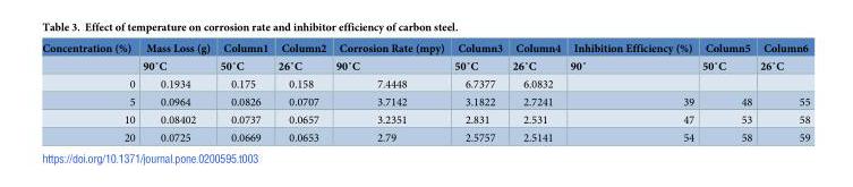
<table><thead><tr><td rowspan="2">Concentration (%)</td><td rowspan="2">Mass Loss (g) 90˚C</td><td rowspan="2">Column1 50˚C</td><td rowspan="2">Column2 26˚C</td><td rowspan="2">Corrosion Rate (mpy) 90˚C</td><td rowspan="2">Column3 50˚C</td><td rowspan="2">Column4 26˚C</td><td rowspan="2">Inhibition Efficiency (%) 90˚</td><td rowspan="2">Column5 50˚C</td><td rowspan="2">Column6 26˚C</td></tr><tr></tr></thead><tbody><tr><td>0</td><td>0.1934</td><td>0.175</td><td>0.158</td><td>7.4448</td><td>6.7377</td><td>6.0832</td><td></td><td></td><td></td></tr><tr><td>5</td><td>0.0964</td><td>0.0826</td><td>0.0707</td><td>3.7142</td><td>3.1822</td><td>2.7241</td><td>39</td><td>48</td><td>55</td></tr><tr><td>10</td><td>0.08402</td><td>0.0737</td><td>0.0657</td><td>3.2351</td><td>2.831</td><td>2.531</td><td>47</td><td>53</td><td>58</td></tr><tr><td>20</td><td>0.0725</td><td>0.0669</td><td>0.0653</td><td>2.79</td><td>2.5757</td><td>2.5141</td><td>54</td><td>58</td><td>59</td></tr></tbody></table>